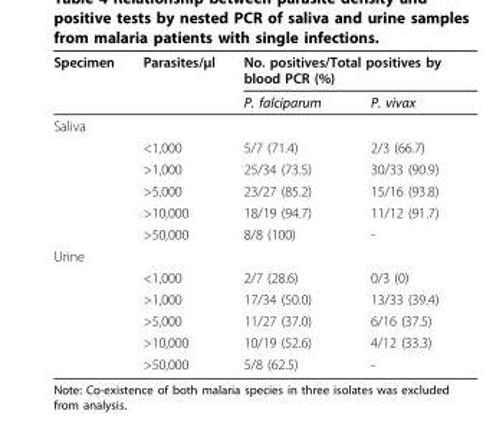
<table><thead><tr><td rowspan="2">Specimen</td><td rowspan="2">Parasites/μl</td><td colspan="2">No. positives/Total positives by blood PCR (%)</td></tr><tr><td>P. falciparum</td><td>P. vivax</td></tr></thead><tbody><tr><td colspan="4">Saliva</td></tr><tr><td></td><td>&lt;1,000</td><td>5/7 (71.4)</td><td>2/3 (66.7)</td></tr><tr><td></td><td>&gt;1,000</td><td>25/34 (73.5)</td><td>30/33 (90.9)</td></tr><tr><td></td><td>&gt;5,000</td><td>23/27 (85.2)</td><td>15/16 (93.8)</td></tr><tr><td></td><td>&gt;10,000</td><td>18/19 (94.7)</td><td>11/12 (91.7)</td></tr><tr><td></td><td>&gt;50,000</td><td>8/8 (100)</td><td>-</td></tr><tr><td colspan="4">Urine</td></tr><tr><td></td><td>&lt;1,000</td><td>2/7 (28.6)</td><td>0/3 (0)</td></tr><tr><td></td><td>&gt;1,000</td><td>17/34 (50.0)</td><td>13/33 (39.4)</td></tr><tr><td></td><td>&gt;5,000</td><td>11/27 (37.0)</td><td>6/16 (37.5)</td></tr><tr><td></td><td>&gt;10,000</td><td>10/19 (52.6)</td><td>4/12 (33.3)</td></tr><tr><td></td><td>&gt;50,000</td><td>5/8 (62.5)</td><td>-</td></tr></tbody></table>